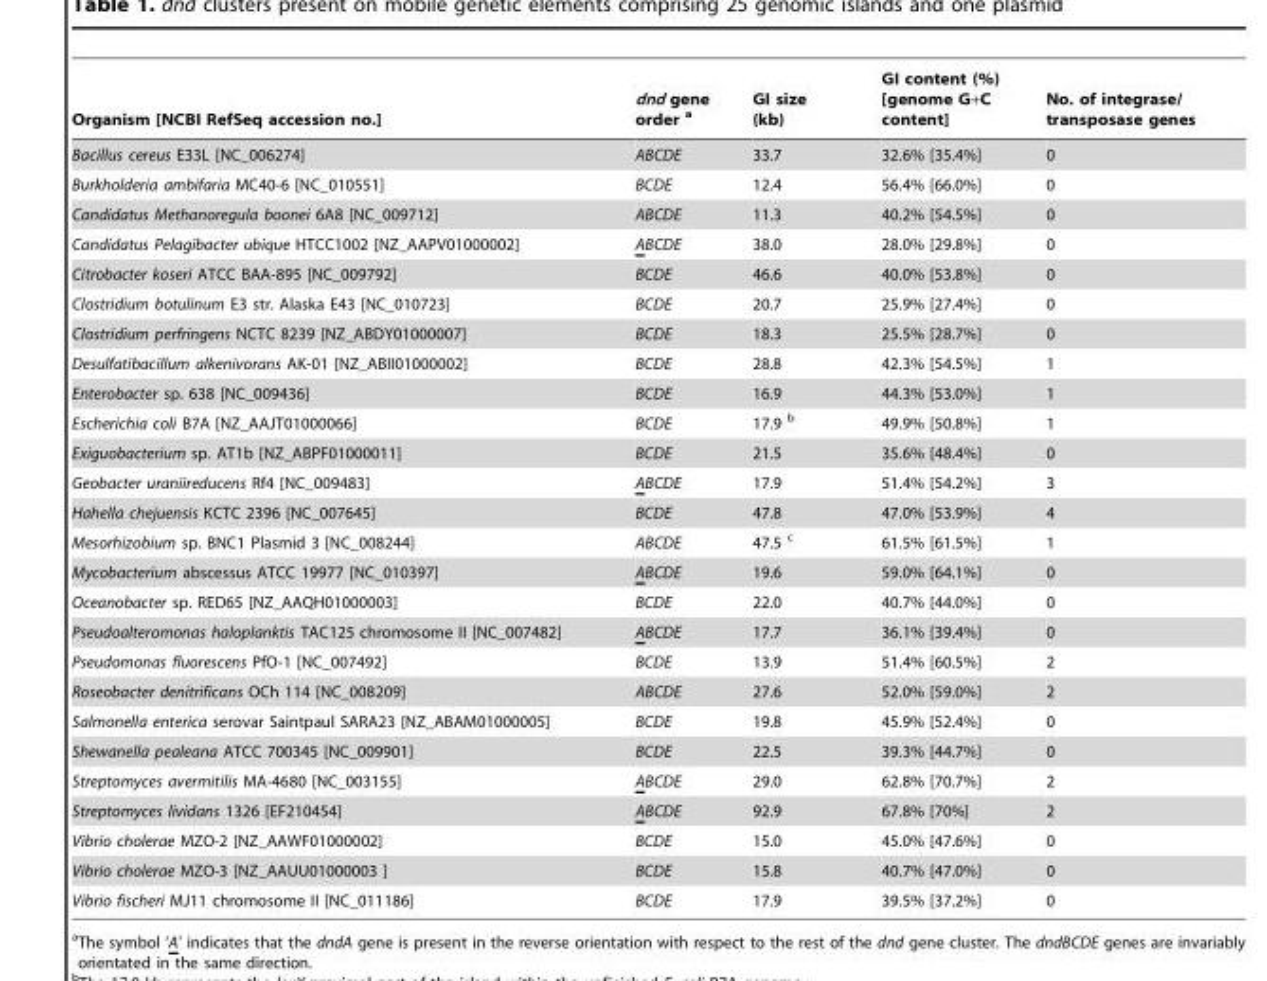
<table><thead><tr><td>Organism [NCBI RefSeq accession no.]</td><td>dnd gene order a</td><td>GI size (kb)</td><td>GI content (%) [genome G+C content]</td><td>No. of integrase/ transposase genes</td></tr></thead><tbody><tr><td>Bacillus cereus E33L [NC_006274]</td><td>ABCDE</td><td>33.7</td><td>32.6% [35.4%]</td><td>0</td></tr><tr><td>Burkholderia ambifaria MC40-6 [NC_010551]</td><td>BCDE</td><td>12.4</td><td>56.4% [66.0%]</td><td>0</td></tr><tr><td>Candidatus Methanoregula boonei 6A8 [NC_009712]</td><td>ABCDE</td><td>11.3</td><td>40.2% [54.5%]</td><td>0</td></tr><tr><td>Candidatus Pelagibacter ubique HTCC1002 [NZ_AAPV01000002]</td><td>ABCDE</td><td>38.0</td><td>28.0% [29.8%]</td><td>0</td></tr><tr><td>Citrobacter koseri ATCC BAA-895 [NC_009792]</td><td>BCDE</td><td>46.6</td><td>40.0% [53.8%]</td><td>0</td></tr><tr><td>Clostridium botulinum E3 str. Alaska E43 [NC_010723]</td><td>BCDE</td><td>20.7</td><td>25.9% [27.4%]</td><td>0</td></tr><tr><td>Clostridium perfringens NCTC 8239 [NZ_ABDY01000007]</td><td>BCDE</td><td>18.3</td><td>25.5% [28.7%]</td><td>0</td></tr><tr><td>Desulfatibacillum alkenivorans AK-01 [NZ_ABII01000002]</td><td>BCDE</td><td>28.8</td><td>42.3% [54.5%]</td><td>1</td></tr><tr><td>Enterobacter sp. 638 [NC_009436]</td><td>BCDE</td><td>16.9</td><td>44.3% [53.0%]</td><td>1</td></tr><tr><td>Escherichia coli B7A [NZ_AAJT01000066]</td><td>BCDE</td><td>17.9 b</td><td>49.9% [50.8%]</td><td>1</td></tr><tr><td>Exiguobacterium sp. AT1b [NZ_ABPF01000011]</td><td>BCDE</td><td>21.5</td><td>35.6% [48.4%]</td><td>0</td></tr><tr><td>Geobacter uraniireducens Rf4 [NC_009483]</td><td>ABCDE</td><td>17.9</td><td>51.4% [54.2%]</td><td>3</td></tr><tr><td>Hahella chejuensis KCTC 2396 [NC_007645]</td><td>BCDE</td><td>47.8</td><td>47.0% [53.9%]</td><td>4</td></tr><tr><td>Mesorhizobium sp. BNC1 Plasmid 3 [NC_008244]</td><td>ABCDE</td><td>47.5 c</td><td>61.5% [61.5%]</td><td>1</td></tr><tr><td>Mycobacterium abscessus ATCC 19977 [NC_010397]</td><td>ABCDE</td><td>19.6</td><td>59.0% [64.1%]</td><td>0</td></tr><tr><td>Oceanobacter sp. RED65 [NZ_AAQH01000003]</td><td>BCDE</td><td>22.0</td><td>40.7% [44.0%]</td><td>0</td></tr><tr><td>Pseudoalteromonas haloplanktis TAC125 chromosome II [NC_007482]</td><td>ABCDE</td><td>17.7</td><td>36.1% [39.4%]</td><td>0</td></tr><tr><td>Pseudomonas fluorescens PfO-1 [NC_007492]</td><td>BCDE</td><td>13.9</td><td>51.4% [60.5%]</td><td>2</td></tr><tr><td>Roseobacter denitrificans OCh 114 [NC_008209]</td><td>ABCDE</td><td>27.6</td><td>52.0% [59.0%]</td><td>2</td></tr><tr><td>Salmonella enterica serovar Saintpaul SARA23 [NZ_ABAM01000005]</td><td>BCDE</td><td>19.8</td><td>45.9% [52.4%]</td><td>0</td></tr><tr><td>Shewanella pealeana ATCC 700345 [NC_009901]</td><td>BCDE</td><td>22.5</td><td>39.3% [44.7%]</td><td>0</td></tr><tr><td>Streptomyces avermitilis MA-4680 [NC_003155]</td><td>ABCDE</td><td>29.0</td><td>62.8% [70.7%]</td><td>2</td></tr><tr><td>Streptomyces lividans 1326 [EF210454]</td><td>ABCDE</td><td>92.9</td><td>67.8% [70%]</td><td>2</td></tr><tr><td>Vibrio cholerae MZO-2 [NZ_AAWF01000002]</td><td>BCDE</td><td>15.0</td><td>45.0% [47.6%]</td><td>0</td></tr><tr><td>Vibrio cholerae MZO-3 [NZ_AAUU01000003 ]</td><td>BCDE</td><td>15.8</td><td>40.7% [47.0%]</td><td>0</td></tr><tr><td>Vibrio fischeri MJ11 chromosome II [NC_011186]</td><td>BCDE</td><td>17.9</td><td>39.5% [37.2%]</td><td>0</td></tr></tbody></table>